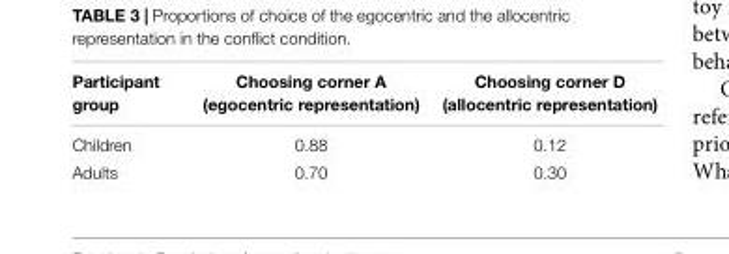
<table><thead><tr><td>Participant group</td><td>Choosing corner A (egocentric representation)</td><td>Choosing corner D (allocentric representation)</td></tr></thead><tbody><tr><td>Children</td><td>0.88</td><td>0.12</td></tr><tr><td>Adults</td><td>0.70</td><td>0.30</td></tr></tbody></table>